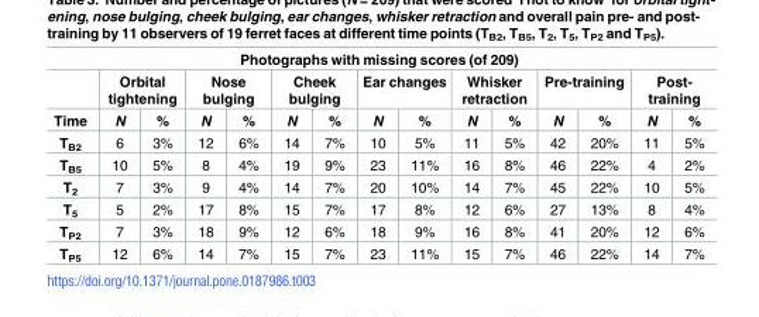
<table><thead><tr><td colspan="15">Photographs with missing scores (of 209)</td></tr><tr><td rowspan="2">Time</td><td colspan="2">Orbital tightening</td><td colspan="2">Nose bulging</td><td colspan="2">Cheek bulging</td><td colspan="2">Ear changes</td><td colspan="2">Whisker retraction</td><td colspan="2">Pre-training</td><td colspan="2">Post- training</td></tr><tr><td>N</td><td>%</td><td>N</td><td>%</td><td>N</td><td>%</td><td>N</td><td>%</td><td>N</td><td>%</td><td>N</td><td>%</td><td>N</td><td>%</td></tr></thead><tbody><tr><td>T<sub>B2</sub></td><td>6</td><td>3%</td><td>12</td><td>6%</td><td>14</td><td>7%</td><td>10</td><td>5%</td><td>11</td><td>5%</td><td>42</td><td>20%</td><td>11</td><td>5%</td></tr><tr><td>T<sub>B5</sub></td><td>10</td><td>5%</td><td>8</td><td>4%</td><td>19</td><td>9%</td><td>23</td><td>11%</td><td>16</td><td>8%</td><td>46</td><td>22%</td><td>4</td><td>2%</td></tr><tr><td>T<sub>2</sub></td><td>7</td><td>3%</td><td>9</td><td>4%</td><td>14</td><td>7%</td><td>20</td><td>10%</td><td>14</td><td>7%</td><td>45</td><td>22%</td><td>10</td><td>5%</td></tr><tr><td>T<sub>5</sub></td><td>5</td><td>2%</td><td>17</td><td>8%</td><td>15</td><td>7%</td><td>17</td><td>8%</td><td>12</td><td>6%</td><td>27</td><td>13%</td><td>8</td><td>4%</td></tr><tr><td>T<sub>P2</sub></td><td>7</td><td>3%</td><td>18</td><td>9%</td><td>12</td><td>6%</td><td>18</td><td>9%</td><td>16</td><td>8%</td><td>41</td><td>20%</td><td>12</td><td>6%</td></tr><tr><td>T<sub>P5</sub></td><td>12</td><td>6%</td><td>14</td><td>7%</td><td>15</td><td>7%</td><td>23</td><td>11%</td><td>15</td><td>7%</td><td>46</td><td>22%</td><td>14</td><td>7%</td></tr></tbody></table>